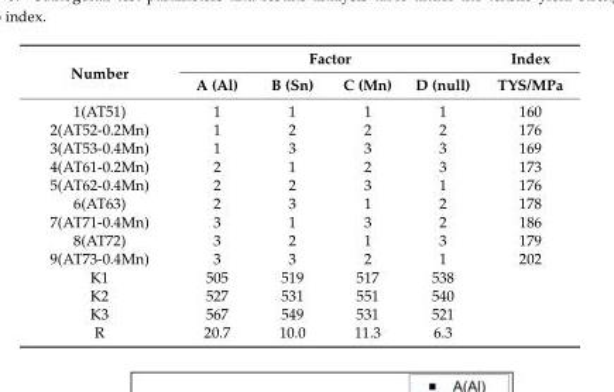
<table><thead><tr><td rowspan="2">Number</td><td colspan="4">Factor</td><td rowspan="2">Index TYS/MPa</td></tr><tr><td>A (Al)</td><td>B (Sn)</td><td>C (Mn)</td><td>D (null)</td></tr></thead><tbody><tr><td>1(AT51)</td><td>1</td><td>1</td><td>1</td><td>1</td><td>160</td></tr><tr><td>2(AT52-0.2Mn)</td><td>1</td><td>2</td><td>2</td><td>2</td><td>176</td></tr><tr><td>3(AT53-0.4Mn)</td><td>1</td><td>3</td><td>3</td><td>3</td><td>169</td></tr><tr><td>4(AT61-0.2Mn)</td><td>2</td><td>1</td><td>2</td><td>3</td><td>173</td></tr><tr><td>5(AT62-0.4Mn)</td><td>2</td><td>2</td><td>3</td><td>1</td><td>176</td></tr><tr><td>6(AT63)</td><td>2</td><td>3</td><td>1</td><td>2</td><td>178</td></tr><tr><td>7(AT71-0.4Mn)</td><td>3</td><td>1</td><td>3</td><td>2</td><td>186</td></tr><tr><td>8(AT72)</td><td>3</td><td>2</td><td>1</td><td>3</td><td>179</td></tr><tr><td>9(AT73-0.4Mn)</td><td>3</td><td>3</td><td>2</td><td>1</td><td>202</td></tr><tr><td>K1</td><td>505</td><td>519</td><td>517</td><td>538</td><td></td></tr><tr><td>K2</td><td>527</td><td>531</td><td>551</td><td>540</td><td></td></tr><tr><td>K3</td><td>567</td><td>549</td><td>531</td><td>521</td><td></td></tr><tr><td>R</td><td>20.7</td><td>10.0</td><td>11.3</td><td>6.3</td><td></td></tr></tbody></table>